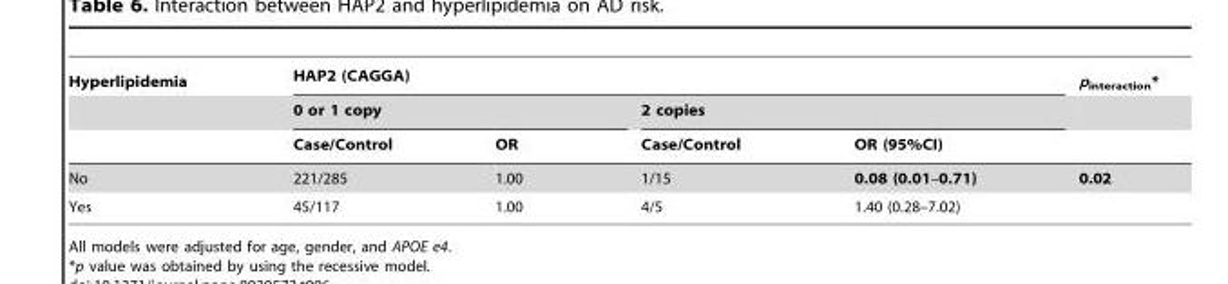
<table><thead><tr><td rowspan="3">Hyperlipidemia</td><td colspan="4">HAP2 (CAGGA)</td><td rowspan="3">p<sub>interaction</sub>*</td></tr><tr><td colspan="2">0 or 1 copy</td><td colspan="2">2 copies</td></tr><tr><td>Case/Control</td><td>OR</td><td>Case/Control</td><td>OR (95%CI)</td></tr></thead><tbody><tr><td>No</td><td>221/285</td><td>1.00</td><td>1/15</td><td>0.08 (0.01–0.71)</td><td>0.02</td></tr><tr><td>Yes</td><td>45/117</td><td>1.00</td><td>4/5</td><td>1.40 (0.28–7.02)</td><td></td></tr></tbody></table>